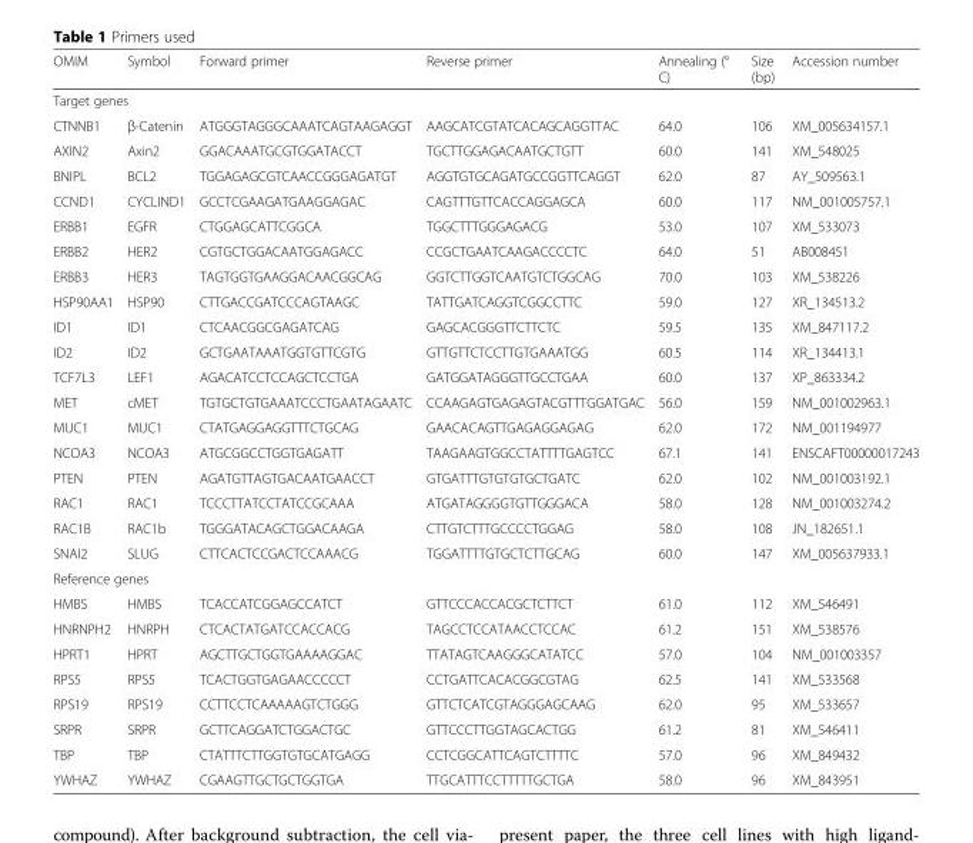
<table><thead><tr><td>OMIM</td><td>Symbol</td><td>Forward primer</td><td>Reverse primer</td><td>Annealing (° C)</td><td>Size (bp)</td><td>Accession number</td></tr></thead><tbody><tr><td colspan="7">Target genes</td></tr><tr><td>CTNNB1</td><td>β-Catenin</td><td>ATGGGTAGGGCAAATCAGTAAGAGGT</td><td>AAGCATCGTATCACAGCAGGTTAC</td><td>64.0</td><td>106</td><td>XM_005634157.1</td></tr><tr><td>AXIN2</td><td>Axin2</td><td>GGACAAATGCGTGGATACCT</td><td>TGCTTGGAGACAATGCTGTT</td><td>60.0</td><td>141</td><td>XM_548025</td></tr><tr><td>BNIPL</td><td>BCL2</td><td>TGGAGAGCGTCAACCGGGAGATGT</td><td>AGGTGTGCAGATGCCGGTTCAGGT</td><td>62.0</td><td>87</td><td>AY_509563.1</td></tr><tr><td>CCND1</td><td>CYCLIND1</td><td>GCCTCGAAGATGAAGGAGAC</td><td>CAGTTTGTTCACCAGGAGCA</td><td>60.0</td><td>117</td><td>NM_001005757.1</td></tr><tr><td>ERBB1</td><td>EGFR</td><td>CTGGAGCATTCGGCA</td><td>TGGCTTTGGGAGACG</td><td>53.0</td><td>107</td><td>XM_533073</td></tr><tr><td>ERBB2</td><td>HER2</td><td>CGTGCTGGACAATGGAGACC</td><td>CCGCTGAATCAAGACCCCTC</td><td>64.0</td><td>51</td><td>AB008451</td></tr><tr><td>ERBB3</td><td>HER3</td><td>TAGTGGTGAAGGACAACGGCAG</td><td>GGTCTTGGTCAATGTCTGGCAG</td><td>70.0</td><td>103</td><td>XM_538226</td></tr><tr><td>HSP90AA1</td><td>HSP90</td><td>CTTGACCGATCCCAGTAAGC</td><td>TATTGATCAGGTCGGCCTTC</td><td>59.0</td><td>127</td><td>XR_134513.2</td></tr><tr><td>ID1</td><td>ID1</td><td>CTCAACGGCGAGATCAG</td><td>GAGCACGGGTTCTTCTC</td><td>59.5</td><td>135</td><td>XM_847117.2</td></tr><tr><td>ID2</td><td>ID2</td><td>GCTGAATAAATGGTGTTCGTG</td><td>GTTGTTCTCCTTGTGAAATGG</td><td>60.5</td><td>114</td><td>XR_134413.1</td></tr><tr><td>TCF7L3</td><td>LEF1</td><td>AGACATCCTCCAGCTCCTGA</td><td>GATGGATAGGGTTGCCTGAA</td><td>60.0</td><td>137</td><td>XP_863334.2</td></tr><tr><td>MET</td><td>cMET</td><td>TGTGCTGTGAAATCCCTGAATAGAATC</td><td>CCAAGAGTGAGAGTACGTTTGGATGAC</td><td>56.0</td><td>159</td><td>NM_001002963.1</td></tr><tr><td>MUC1</td><td>MUC1</td><td>CTATGAGGAGGTTTCTGCAG</td><td>GAACACAGTTGAGAGGAGAG</td><td>62.0</td><td>172</td><td>NM_001194977</td></tr><tr><td>NCOA3</td><td>NCOA3</td><td>ATGCGGCCTGGTGAGATT</td><td>TAAGAAGTGGCCTATTTTGAGTCC</td><td>67.1</td><td>141</td><td>ENSCAFT00000017243</td></tr><tr><td>PTEN</td><td>PTEN</td><td>AGATGTTAGTGACAATGAACCT</td><td>GTGATTTGTGTGTGCTGATC</td><td>62.0</td><td>102</td><td>NM_001003192.1</td></tr><tr><td>RAC1</td><td>RAC1</td><td>TCCCTTATCCTATCCGCAAA</td><td>ATGATAGGGGTGTTGGGACA</td><td>58.0</td><td>128</td><td>NM_001003274.2</td></tr><tr><td>RAC1B</td><td>RAC1b</td><td>TGGGATACAGCTGGACAAGA</td><td>CTTGTCTTTGCCCCTGGAG</td><td>58.0</td><td>108</td><td>JN_182651.1</td></tr><tr><td>SNAI2</td><td>SLUG</td><td>CTTCACTCCGACTCCAAACG</td><td>TGGATTTTGTGCTCTTGCAG</td><td>60.0</td><td>147</td><td>XM_005637933.1</td></tr><tr><td colspan="7">Reference genes</td></tr><tr><td>HMBS</td><td>HMBS</td><td>TCACCATCGGAGCCATCT</td><td>GTTCCCACCACGCTCTTCT</td><td>61.0</td><td>112</td><td>XM_546491</td></tr><tr><td>HNRNPH2</td><td>HNRPH</td><td>CTCACTATGATCCACCACG</td><td>TAGCCTCCATAACCTCCAC</td><td>61.2</td><td>151</td><td>XM_538576</td></tr><tr><td>HPRT1</td><td>HPRT</td><td>AGCTTGCTGGTGAAAAGGAC</td><td>TTATAGTCAAGGGCATATCC</td><td>57.0</td><td>104</td><td>NM_001003357</td></tr><tr><td>RPS5</td><td>RPS5</td><td>TCACTGGTGAGAACCCCCT</td><td>CCTGATTCACACGGCGTAG</td><td>62.5</td><td>141</td><td>XM_533568</td></tr><tr><td>RPS19</td><td>RPS19</td><td>CCTTCCTCAAAAAGTCTGGG</td><td>GTTCTCATCGTAGGGAGCAAG</td><td>62.0</td><td>95</td><td>XM_533657</td></tr><tr><td>SRPR</td><td>SRPR</td><td>GCTTCAGGATCTGGACTGC</td><td>GTTCCCTTGGTAGCACTGG</td><td>61.2</td><td>81</td><td>XM_546411</td></tr><tr><td>TBP</td><td>TBP</td><td>CTATTTCTTGGTGTGCATGAGG</td><td>CCTCGGCATTCAGTCTTTTC</td><td>57.0</td><td>96</td><td>XM_849432</td></tr><tr><td>YWHAZ</td><td>YWHAZ</td><td>CGAAGTTGCTGCTGGTGA</td><td>TTGCATTTCCTTTTTGCTGA</td><td>58.0</td><td>96</td><td>XM_843951</td></tr></tbody></table>